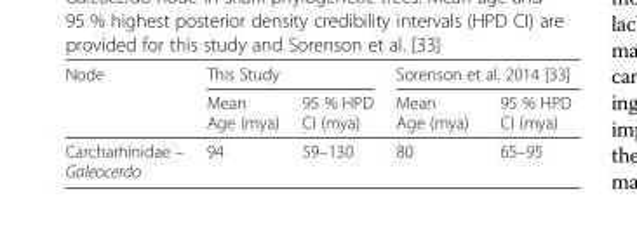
<table><thead><tr><td rowspan="2">Node</td><td colspan="2">This Study</td><td colspan="2">Sorenson et al. 2014 [33]</td></tr><tr><td>Mean Age (mya)</td><td>95 % HPD CI (mya)</td><td>Mean Age (mya)</td><td>95 % HPD CI (mya)</td></tr></thead><tbody><tr><td>Carcharhinidae – Galeocerdo</td><td>94</td><td>59–130</td><td>80</td><td>65–95</td></tr></tbody></table>